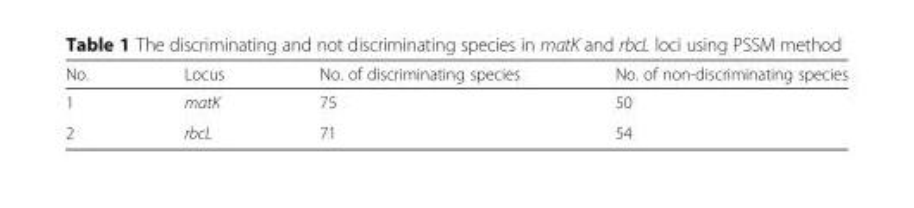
<table><thead><tr><td>No.</td><td>Locus</td><td>No. of discriminating species</td><td>No. of non-discriminating species</td></tr></thead><tbody><tr><td>1</td><td>matK</td><td>75</td><td>50</td></tr><tr><td>2</td><td>rbcL</td><td>71</td><td>54</td></tr></tbody></table>